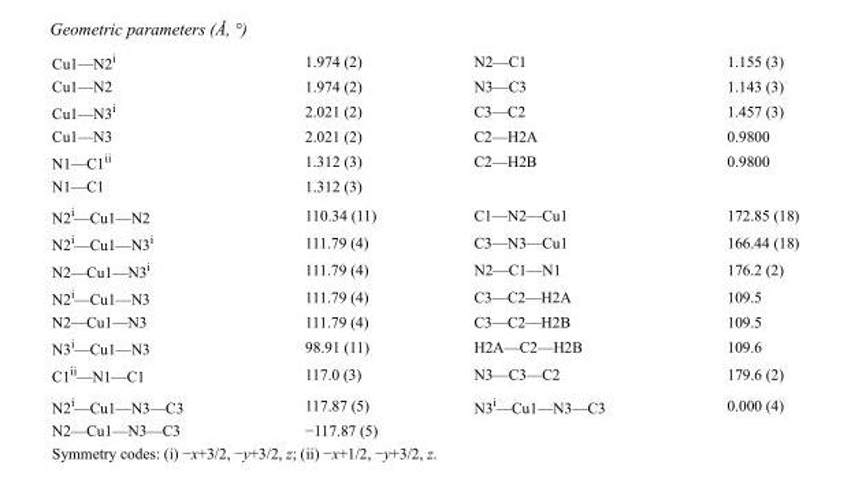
<table><tbody><tr><td>Cu1—N2<sup>i</sup></td><td>1.974 (2)</td><td>N2—C1</td><td>1.155 (3)</td></tr><tr><td>Cu1—N2</td><td>1.974 (2)</td><td>N3—C3</td><td>1.143 (3)</td></tr><tr><td>Cu1—N3<sup>i</sup></td><td>2.021 (2)</td><td>C3—C2</td><td>1.457 (3)</td></tr><tr><td>Cu1—N3</td><td>2.021 (2)</td><td>C2—H2A</td><td>0.9800</td></tr><tr><td>N1—C1<sup>ii</sup></td><td>1.312 (3)</td><td>C2—H2B</td><td>0.9800</td></tr><tr><td>N1—C1</td><td>1.312 (3)</td><td></td><td></td></tr><tr><td>N2<sup>i</sup>—Cu1—N2</td><td>110.34 (11)</td><td>C1—N2—Cu1</td><td>172.85 (18)</td></tr><tr><td>N2<sup>i</sup>—Cu1—N3<sup>i</sup></td><td>111.79 (4)</td><td>C3—N3—Cu1</td><td>166.44 (18)</td></tr><tr><td>N2—Cu1—N3<sup>i</sup></td><td>111.79 (4)</td><td>N2—C1—N1</td><td>176.2 (2)</td></tr><tr><td>N2<sup>i</sup>—Cu1—N3</td><td>111.79 (4)</td><td>C3—C2—H2A</td><td>109.5</td></tr><tr><td>N2—Cu1—N3</td><td>111.79 (4)</td><td>C3—C2—H2B</td><td>109.5</td></tr><tr><td>N3<sup>i</sup>—Cu1—N3</td><td>98.91 (11)</td><td>H2A—C2—H2B</td><td>109.6</td></tr><tr><td>C1<sup>ii</sup>—N1—C1</td><td>117.0 (3)</td><td>N3—C3—C2</td><td>179.6 (2)</td></tr><tr><td>N2<sup>i</sup>—Cu1—N3—C3</td><td>117.87 (5)</td><td>N3<sup>i</sup>—Cu1—N3—C3</td><td>0.000 (4)</td></tr><tr><td>N2—Cu1—N3—C3</td><td>−117.87 (5)</td><td></td><td></td></tr></tbody></table>